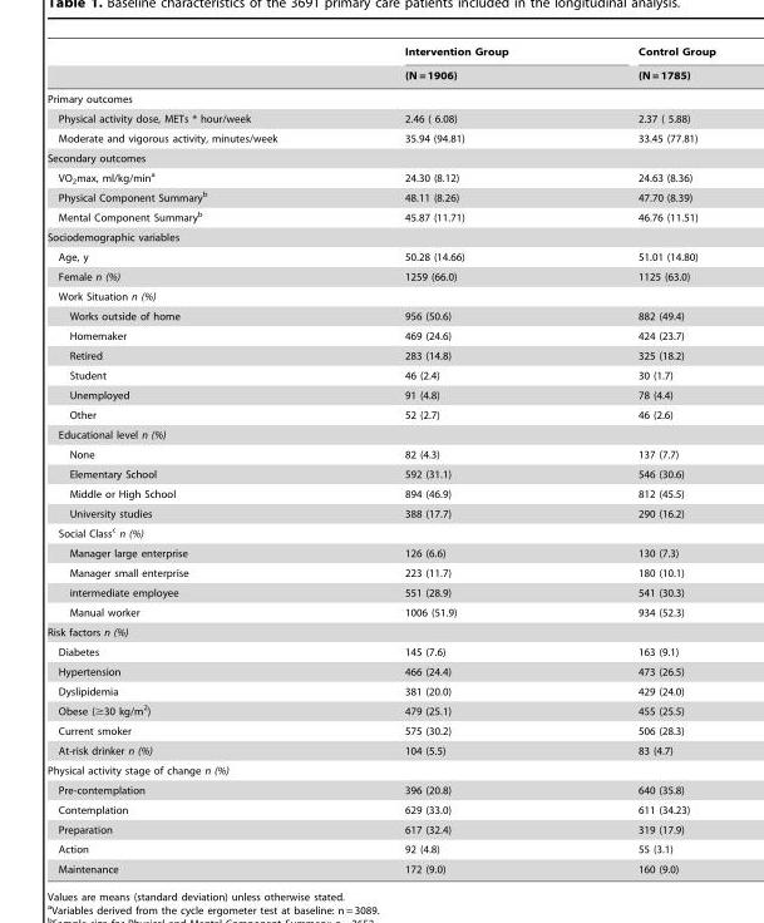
<table><thead><tr><td rowspan="2"></td><td rowspan="2">Intervention Group (N = 1906)</td><td rowspan="2">Control Group (N = 1785)</td></tr><tr></tr></thead><tbody><tr><td colspan="3">Primary outcomes</td></tr><tr><td>Physical activity dose, METs * hour/week</td><td>2.46 ( 6.08)</td><td>2.37 ( 5.88)</td></tr><tr><td>Moderate and vigorous activity, minutes/week</td><td>35.94 (94.81)</td><td>33.45 (77.81)</td></tr><tr><td colspan="3">Secondary outcomes</td></tr><tr><td>VO<sub>2</sub>max, ml/kg/min<sup>a</sup></td><td>24.30 (8.12)</td><td>24.63 (8.36)</td></tr><tr><td>Physical Component Summary<sup>b</sup></td><td>48.11 (8.26)</td><td>47.70 (8.39)</td></tr><tr><td>Mental Component Summary<sup>b</sup></td><td>45.87 (11.71)</td><td>46.76 (11.51)</td></tr><tr><td colspan="3">Sociodemographic variables</td></tr><tr><td>Age, y</td><td>50.28 (14.66)</td><td>51.01 (14.80)</td></tr><tr><td>Female n (%)</td><td>1259 (66.0)</td><td>1125 (63.0)</td></tr><tr><td colspan="3">Work Situation n (%)</td></tr><tr><td>Works outside of home</td><td>956 (50.6)</td><td>882 (49.4)</td></tr><tr><td>Homemaker</td><td>469 (24.6)</td><td>424 (23.7)</td></tr><tr><td>Retired</td><td>283 (14.8)</td><td>325 (18.2)</td></tr><tr><td>Student</td><td>46 (2.4)</td><td>30 (1.7)</td></tr><tr><td>Unemployed</td><td>91 (4.8)</td><td>78 (4.4)</td></tr><tr><td>Other</td><td>52 (2.7)</td><td>46 (2.6)</td></tr><tr><td colspan="3">Educational level n (%)</td></tr><tr><td>None</td><td>82 (4.3)</td><td>137 (7.7)</td></tr><tr><td>Elementary School</td><td>592 (31.1)</td><td>546 (30.6)</td></tr><tr><td>Middle or High School</td><td>894 (46.9)</td><td>812 (45.5)</td></tr><tr><td>University studies</td><td>388 (17.7)</td><td>290 (16.2)</td></tr><tr><td colspan="3">Social Class<sup>c</sup> n (%)</td></tr><tr><td>Manager large enterprise</td><td>126 (6.6)</td><td>130 (7.3)</td></tr><tr><td>Manager small enterprise</td><td>223 (11.7)</td><td>180 (10.1)</td></tr><tr><td>intermediate employee</td><td>551 (28.9)</td><td>541 (30.3)</td></tr><tr><td>Manual worker</td><td>1006 (51.9)</td><td>934 (52.3)</td></tr><tr><td colspan="3">Risk factors n (%)</td></tr><tr><td>Diabetes</td><td>145 (7.6)</td><td>163 (9.1)</td></tr><tr><td>Hypertension</td><td>466 (24.4)</td><td>473 (26.5)</td></tr><tr><td>Dyslipidemia</td><td>381 (20.0)</td><td>429 (24.0)</td></tr><tr><td>Obese (≥30 kg/m<sup>2</sup>)</td><td>479 (25.1)</td><td>455 (25.5)</td></tr><tr><td>Current smoker</td><td>575 (30.2)</td><td>506 (28.3)</td></tr><tr><td>At-risk drinker n (%)</td><td>104 (5.5)</td><td>83 (4.7)</td></tr><tr><td colspan="3">Physical activity stage of change n (%)</td></tr><tr><td>Pre-contemplation</td><td>396 (20.8)</td><td>640 (35.8)</td></tr><tr><td>Contemplation</td><td>629 (33.0)</td><td>611 (34.23)</td></tr><tr><td>Preparation</td><td>617 (32.4)</td><td>319 (17.9)</td></tr><tr><td>Action</td><td>92 (4.8)</td><td>55 (3.1)</td></tr><tr><td>Maintenance</td><td>172 (9.0)</td><td>160 (9.0)</td></tr></tbody></table>